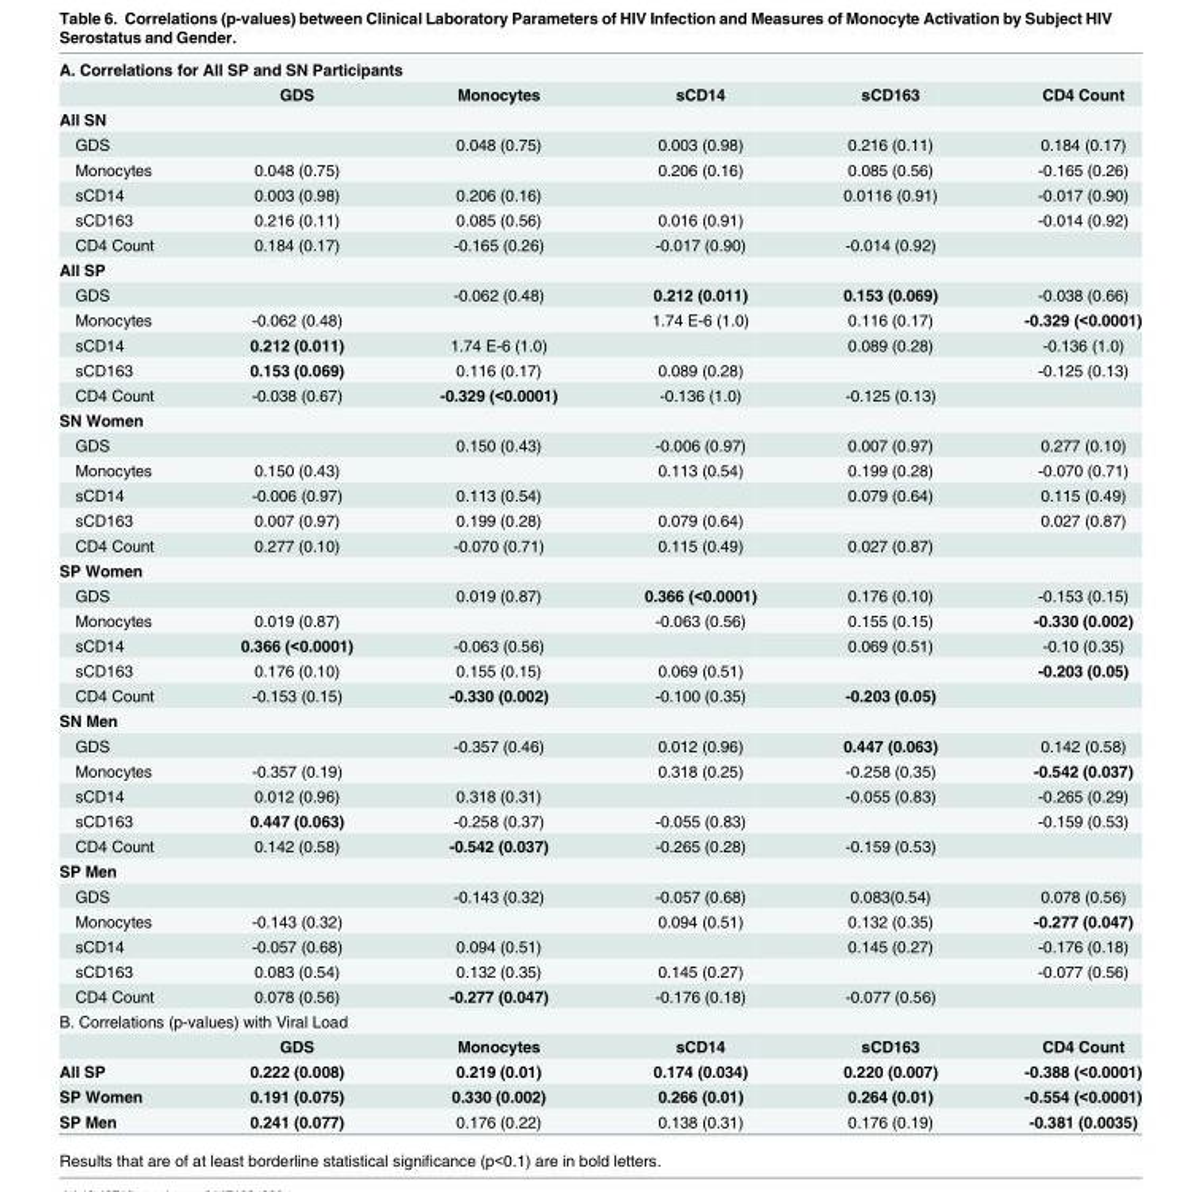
<table><tbody><tr><td colspan="6">A. Correlations for All SP and SN Participants</td></tr><tr><td></td><td>GDS</td><td>Monocytes</td><td>sCD14</td><td>sCD163</td><td>CD4 Count</td></tr><tr><td colspan="6">All SN</td></tr><tr><td>GDS</td><td></td><td>0.048 (0.75)</td><td>0.003 (0.98)</td><td>0.216 (0.11)</td><td>0.184 (0.17)</td></tr><tr><td>Monocytes</td><td>0.048 (0.75)</td><td></td><td>0.206 (0.16)</td><td>0.085 (0.56)</td><td>-0.165 (0.26)</td></tr><tr><td>sCD14</td><td>0.003 (0.98)</td><td>0.206 (0.16)</td><td></td><td>0.0116 (0.91)</td><td>-0.017 (0.90)</td></tr><tr><td>sCD163</td><td>0.216 (0.11)</td><td>0.085 (0.56)</td><td>0.016 (0.91)</td><td></td><td>-0.014 (0.92)</td></tr><tr><td>CD4 Count</td><td>0.184 (0.17)</td><td>-0.165 (0.26)</td><td>-0.017 (0.90)</td><td>-0.014 (0.92)</td><td></td></tr><tr><td colspan="6">All SP</td></tr><tr><td>GDS</td><td></td><td>-0.062 (0.48)</td><td>0.212 (0.011)</td><td>0.153 (0.069)</td><td>-0.038 (0.66)</td></tr><tr><td>Monocytes</td><td>-0.062 (0.48)</td><td></td><td>1.74 E-6 (1.0)</td><td>0.116 (0.17)</td><td>-0.329 (&lt;0.0001)</td></tr><tr><td>sCD14</td><td>0.212 (0.011)</td><td>1.74 E-6 (1.0)</td><td></td><td>0.089 (0.28)</td><td>-0.136 (1.0)</td></tr><tr><td>sCD163</td><td>0.153 (0.069)</td><td>0.116 (0.17)</td><td>0.089 (0.28)</td><td></td><td>-0.125 (0.13)</td></tr><tr><td>CD4 Count</td><td>-0.038 (0.67)</td><td>-0.329 (&lt;0.0001)</td><td>-0.136 (1.0)</td><td>-0.125 (0.13)</td><td></td></tr><tr><td colspan="6">SN Women</td></tr><tr><td>GDS</td><td></td><td>0.150 (0.43)</td><td>-0.006 (0.97)</td><td>0.007 (0.97)</td><td>0.277 (0.10)</td></tr><tr><td>Monocytes</td><td>0.150 (0.43)</td><td></td><td>0.113 (0.54)</td><td>0.199 (0.28)</td><td>-0.070 (0.71)</td></tr><tr><td>sCD14</td><td>-0.006 (0.97)</td><td>0.113 (0.54)</td><td></td><td>0.079 (0.64)</td><td>0.115 (0.49)</td></tr><tr><td>sCD163</td><td>0.007 (0.97)</td><td>0.199 (0.28)</td><td>0.079 (0.64)</td><td></td><td>0.027 (0.87)</td></tr><tr><td>CD4 Count</td><td>0.277 (0.10)</td><td>-0.070 (0.71)</td><td>0.115 (0.49)</td><td>0.027 (0.87)</td><td></td></tr><tr><td colspan="6">SP Women</td></tr><tr><td>GDS</td><td></td><td>0.019 (0.87)</td><td>0.366 (&lt;0.0001)</td><td>0.176 (0.10)</td><td>-0.153 (0.15)</td></tr><tr><td>Monocytes</td><td>0.019 (0.87)</td><td></td><td>-0.063 (0.56)</td><td>0.155 (0.15)</td><td>-0.330 (0.002)</td></tr><tr><td>sCD14</td><td>0.366 (&lt;0.0001)</td><td>-0.063 (0.56)</td><td></td><td>0.069 (0.51)</td><td>-0.10 (0.35)</td></tr><tr><td>sCD163</td><td>0.176 (0.10)</td><td>0.155 (0.15)</td><td>0.069 (0.51)</td><td></td><td>-0.203 (0.05)</td></tr><tr><td>CD4 Count</td><td>-0.153 (0.15)</td><td>-0.330 (0.002)</td><td>-0.100 (0.35)</td><td>-0.203 (0.05)</td><td></td></tr><tr><td colspan="6">SN Men</td></tr><tr><td>GDS</td><td></td><td>-0.357 (0.46)</td><td>0.012 (0.96)</td><td>0.447 (0.063)</td><td>0.142 (0.58)</td></tr><tr><td>Monocytes</td><td>-0.357 (0.19)</td><td></td><td>0.318 (0.25)</td><td>-0.258 (0.35)</td><td>-0.542 (0.037)</td></tr><tr><td>sCD14</td><td>0.012 (0.96)</td><td>0.318 (0.31)</td><td></td><td>-0.055 (0.83)</td><td>-0.265 (0.29)</td></tr><tr><td>sCD163</td><td>0.447 (0.063)</td><td>-0.258 (0.37)</td><td>-0.055 (0.83)</td><td></td><td>-0.159 (0.53)</td></tr><tr><td>CD4 Count</td><td>0.142 (0.58)</td><td>-0.542 (0.037)</td><td>-0.265 (0.28)</td><td>-0.159 (0.53)</td><td></td></tr><tr><td colspan="6">SP Men</td></tr><tr><td>GDS</td><td></td><td>-0.143 (0.32)</td><td>-0.057 (0.68)</td><td>0.083(0.54)</td><td>0.078 (0.56)</td></tr><tr><td>Monocytes</td><td>-0.143 (0.32)</td><td></td><td>0.094 (0.51)</td><td>0.132 (0.35)</td><td>-0.277 (0.047)</td></tr><tr><td>sCD14</td><td>-0.057 (0.68)</td><td>0.094 (0.51)</td><td></td><td>0.145 (0.27)</td><td>-0.176 (0.18)</td></tr><tr><td>sCD163</td><td>0.083 (0.54)</td><td>0.132 (0.35)</td><td>0.145 (0.27)</td><td></td><td>-0.077 (0.56)</td></tr><tr><td>CD4 Count</td><td>0.078 (0.56)</td><td>-0.277 (0.047)</td><td>-0.176 (0.18)</td><td>-0.077 (0.56)</td><td></td></tr><tr><td colspan="6">B. Correlations (p-values) with Viral Load</td></tr><tr><td></td><td>GDS</td><td>Monocytes</td><td>sCD14</td><td>sCD163</td><td>CD4 Count</td></tr><tr><td>All SP</td><td>0.222 (0.008)</td><td>0.219 (0.01)</td><td>0.174 (0.034)</td><td>0.220 (0.007)</td><td>-0.388 (&lt;0.0001)</td></tr><tr><td>SP Women</td><td>0.191 (0.075)</td><td>0.330 (0.002)</td><td>0.266 (0.01)</td><td>0.264 (0.01)</td><td>-0.554 (&lt;0.0001)</td></tr><tr><td>SP Men</td><td>0.241 (0.077)</td><td>0.176 (0.22)</td><td>0.138 (0.31)</td><td>0.176 (0.19)</td><td>-0.381 (0.0035)</td></tr></tbody></table>